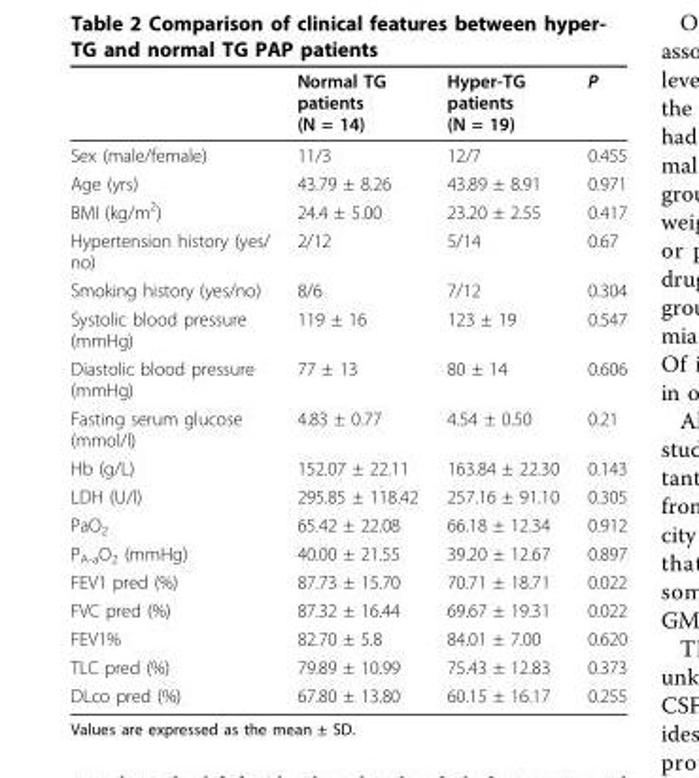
<table><thead><tr><td></td><td>Normal TG patients (N = 14)</td><td>Hyper-TG patients (N = 19)</td><td>P</td></tr></thead><tbody><tr><td>Sex (male/female)</td><td>11/3</td><td>12/7</td><td>0.455</td></tr><tr><td>Age (yrs)</td><td>43.79 ± 8.26</td><td>43.89 ± 8.91</td><td>0.971</td></tr><tr><td>BMI (kg/m<sup>2</sup>)</td><td>24.4 ± 5.00</td><td>23.20 ± 2.55</td><td>0.417</td></tr><tr><td>Hypertension history (yes/ no)</td><td>2/12</td><td>5/14</td><td>0.67</td></tr><tr><td>Smoking history (yes/no)</td><td>8/6</td><td>7/12</td><td>0.304</td></tr><tr><td>Systolic blood pressure (mmHg)</td><td>119 ± 16</td><td>123 ± 19</td><td>0.547</td></tr><tr><td>Diastolic blood pressure (mmHg)</td><td>77 ± 13</td><td>80 ± 14</td><td>0.606</td></tr><tr><td>Fasting serum glucose (mmol/l)</td><td>4.83 ± 0.77</td><td>4.54 ± 0.50</td><td>0.21</td></tr><tr><td>Hb (g/L)</td><td>152.07 ± 22.11</td><td>163.84 ± 22.30</td><td>0.143</td></tr><tr><td>LDH (U/l)</td><td>295.85 ± 118.42</td><td>257.16 ± 91.10</td><td>0.305</td></tr><tr><td>PaO<sub>2</sub></td><td>65.42 ± 22.08</td><td>66.18 ± 12.34</td><td>0.912</td></tr><tr><td>P<sub>A-a</sub>O<sub>2</sub> (mmHg)</td><td>40.00 ± 21.55</td><td>39.20 ± 12.67</td><td>0.897</td></tr><tr><td>FEV1 pred (%)</td><td>87.73 ± 15.70</td><td>70.71 ± 18.71</td><td>0.022</td></tr><tr><td>FVC pred (%)</td><td>87.32 ± 16.44</td><td>69.67 ± 19.31</td><td>0.022</td></tr><tr><td>FEV1%</td><td>82.70 ± 5.8</td><td>84.01 ± 7.00</td><td>0.620</td></tr><tr><td>TLC pred (%)</td><td>79.89 ± 10.99</td><td>75.43 ± 12.83</td><td>0.373</td></tr><tr><td>DLco pred (%)</td><td>67.80 ± 13.80</td><td>60.15 ± 16.17</td><td>0.255</td></tr></tbody></table>